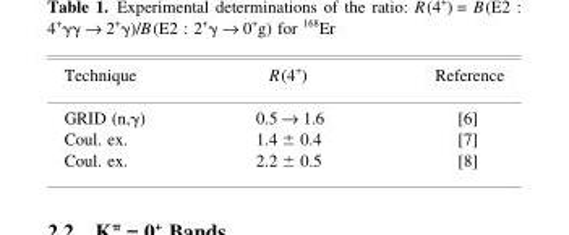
<table><thead><tr><td>Technique</td><td>R(4<sup>+</sup>)</td><td>Reference</td></tr></thead><tbody><tr><td>GRID (n,γ)</td><td>0.5 → 1.6</td><td>[6]</td></tr><tr><td>Coul. ex.</td><td>1.4 ± 0.4</td><td>[7]</td></tr><tr><td>Coul. ex.</td><td>2.2 ± 0.5</td><td>[8]</td></tr></tbody></table>